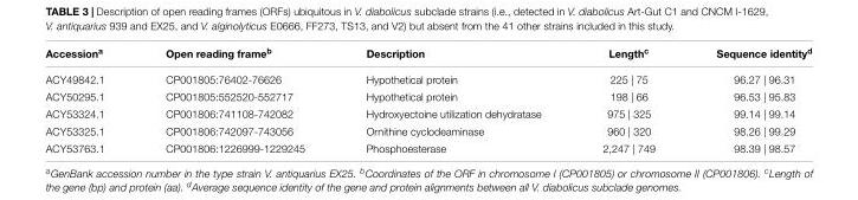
<table><thead><tr><td>Accession<sup>a</sup></td><td>Open reading frame<sup>b</sup></td><td>Description</td><td>Length<sup>c</sup></td><td>Sequence identity<sup>d</sup></td></tr></thead><tbody><tr><td>ACY49842.1</td><td>CP001805:76402-76626</td><td>Hypothetical protein</td><td>225 | 75</td><td>96.27 | 96.31</td></tr><tr><td>ACY50295.1</td><td>CP001805:552520-552717</td><td>Hypothetical protein</td><td>198 | 66</td><td>96.53 | 95.83</td></tr><tr><td>ACY53324.1</td><td>CP001806:741108-742082</td><td>Hydroxyectoine utilization dehydratase</td><td>975 | 325</td><td>99.14 | 99.14</td></tr><tr><td>ACY53325.1</td><td>CP001806:742097-743056</td><td>Ornithine cyclodeaminase</td><td>960 | 320</td><td>98.26 | 99.29</td></tr><tr><td>ACY53763.1</td><td>CP001806:1226999-1229245</td><td>Phosphoesterase</td><td>2,247 | 749</td><td>98.39 | 98.57</td></tr></tbody></table>